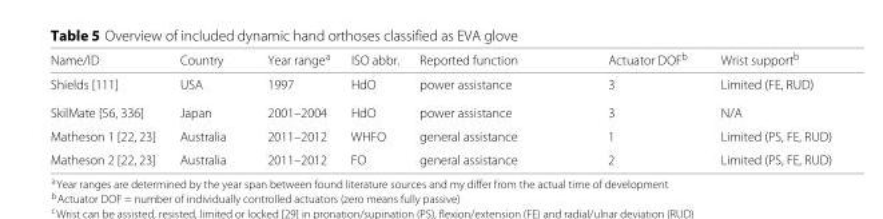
<table><thead><tr><td>Name/ID</td><td>Country</td><td>Year range<sup>a</sup></td><td>ISO abbr.</td><td>Reported function</td><td>Actuator DOF<sup>b</sup></td><td>Wrist support<sup>b</sup></td></tr></thead><tbody><tr><td>Shields [111]</td><td>USA</td><td>1997</td><td>HdO</td><td>power assistance</td><td>3</td><td>Limited (FE, RUD)</td></tr><tr><td>SkilMate [56, 336]</td><td>Japan</td><td>2001–2004</td><td>HdO</td><td>power assistance</td><td>3</td><td>N/A</td></tr><tr><td>Matheson 1 [22, 23]</td><td>Australia</td><td>2011–2012</td><td>WHFO</td><td>general assistance</td><td>1</td><td>Limited (PS, FE, RUD)</td></tr><tr><td>Matheson 2 [22, 23]</td><td>Australia</td><td>2011–2012</td><td>FO</td><td>general assistance</td><td>2</td><td>Limited (PS, FE, RUD)</td></tr></tbody></table>